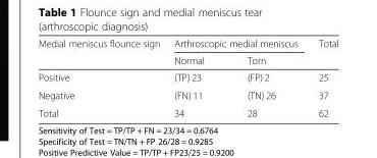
<table><thead><tr><td rowspan="2">Medial meniscus flounce sign</td><td colspan="2">Arthroscopic medial meniscus</td><td rowspan="2">Total</td></tr><tr><td>Normal</td><td>Torn</td></tr></thead><tbody><tr><td>Positive</td><td>(TP) 23</td><td>(FP) 2</td><td>25</td></tr><tr><td>Negative</td><td>(FN) 11</td><td>(TN) 26</td><td>37</td></tr><tr><td>Total</td><td>34</td><td>28</td><td>62</td></tr></tbody></table>